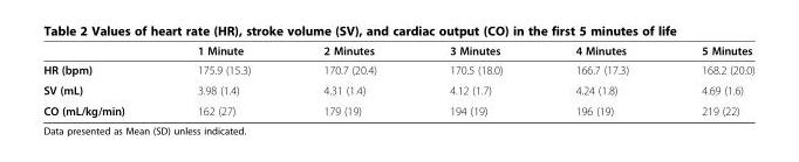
<table><thead><tr><td></td><td>1 Minute</td><td>2 Minutes</td><td>3 Minutes</td><td>4 Minutes</td><td>5 Minutes</td></tr></thead><tbody><tr><td>HR (bpm)</td><td>175.9 (15.3)</td><td>170.7 (20.4)</td><td>170.5 (18.0)</td><td>166.7 (17.3)</td><td>168.2 (20.0)</td></tr><tr><td>SV (mL)</td><td>3.98 (1.4)</td><td>4.31 (1.4)</td><td>4.12 (1.7)</td><td>4.24 (1.8)</td><td>4.69 (1.6)</td></tr><tr><td>CO (mL/kg/min)</td><td>162 (27)</td><td>179 (19)</td><td>194 (19)</td><td>196 (19)</td><td>219 (22)</td></tr></tbody></table>